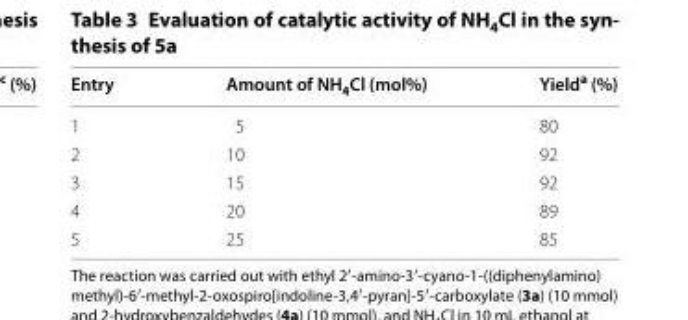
<table><thead><tr><td>Entry</td><td>Amount of NH<sub>4</sub>Cl (mol%)</td><td>Yield<sup>a</sup> (%)</td></tr></thead><tbody><tr><td>1</td><td>5</td><td>80</td></tr><tr><td>2</td><td>10</td><td>92</td></tr><tr><td>3</td><td>15</td><td>92</td></tr><tr><td>4</td><td>20</td><td>89</td></tr><tr><td>5</td><td>25</td><td>85</td></tr></tbody></table>